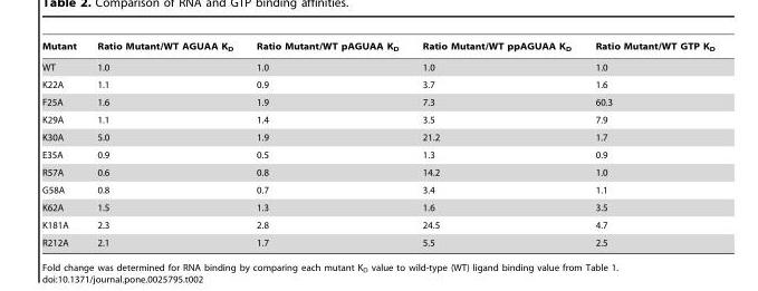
<table><thead><tr><td>Mutant</td><td>Ratio Mutant/WT AGUAA K<sub>D</sub></td><td>Ratio Mutant/WT pAGUAA K<sub>D</sub></td><td>Ratio Mutant/WT ppAGUAA K<sub>D</sub></td><td>Ratio Mutant/WT GTP K<sub>D</sub></td></tr></thead><tbody><tr><td>WT</td><td>1.0</td><td>1.0</td><td>1.0</td><td>1.0</td></tr><tr><td>K22A</td><td>1.1</td><td>0.9</td><td>3.7</td><td>1.6</td></tr><tr><td>F25A</td><td>1.6</td><td>1.9</td><td>7.3</td><td>60.3</td></tr><tr><td>K29A</td><td>1.1</td><td>1.4</td><td>3.5</td><td>7.9</td></tr><tr><td>K30A</td><td>5.0</td><td>1.9</td><td>21.2</td><td>1.7</td></tr><tr><td>E35A</td><td>0.9</td><td>0.5</td><td>1.3</td><td>0.9</td></tr><tr><td>R57A</td><td>0.6</td><td>0.8</td><td>14.2</td><td>1.0</td></tr><tr><td>G58A</td><td>0.8</td><td>0.7</td><td>3.4</td><td>1.1</td></tr><tr><td>K62A</td><td>1.5</td><td>1.3</td><td>1.6</td><td>3.5</td></tr><tr><td>K181A</td><td>2.3</td><td>2.8</td><td>24.5</td><td>4.7</td></tr><tr><td>R212A</td><td>2.1</td><td>1.7</td><td>5.5</td><td>2.5</td></tr></tbody></table>